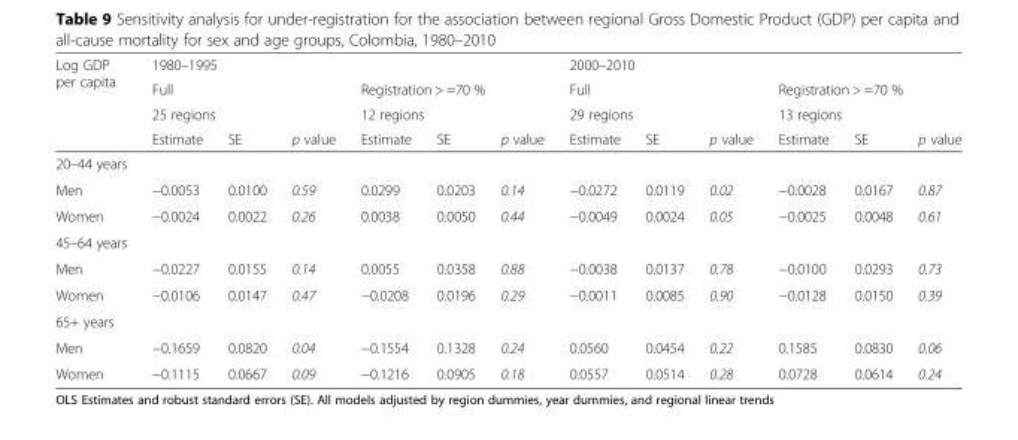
<table><thead><tr><td rowspan="4">Log GDP per capita</td><td colspan="6">1980–1995</td><td colspan="6">2000–2010</td></tr><tr><td rowspan="2" colspan="3">Full 25 regions</td><td rowspan="2" colspan="3">Registration &gt; =70 % 12 regions</td><td rowspan="2" colspan="3">Full 29 regions</td><td rowspan="2" colspan="3">Registration &gt; =70 % 13 regions</td></tr><tr></tr><tr><td>Estimate</td><td>SE</td><td>p value</td><td>Estimate</td><td>SE</td><td>p value</td><td>Estimate</td><td>SE</td><td>p value</td><td>Estimate</td><td>SE</td><td>p value</td></tr></thead><tbody><tr><td colspan="13">20–44 years</td></tr><tr><td>Men</td><td>−0.0053</td><td>0.0100</td><td>0.59</td><td>0.0299</td><td>0.0203</td><td>0.14</td><td>−0.0272</td><td>0.0119</td><td>0.02</td><td>−0.0028</td><td>0.0167</td><td>0.87</td></tr><tr><td>Women</td><td>−0.0024</td><td>0.0022</td><td>0.26</td><td>0.0038</td><td>0.0050</td><td>0.44</td><td>−0.0049</td><td>0.0024</td><td>0.05</td><td>−0.0025</td><td>0.0048</td><td>0.61</td></tr><tr><td colspan="13">45–64 years</td></tr><tr><td>Men</td><td>−0.0227</td><td>0.0155</td><td>0.14</td><td>0.0055</td><td>0.0358</td><td>0.88</td><td>−0.0038</td><td>0.0137</td><td>0.78</td><td>−0.0100</td><td>0.0293</td><td>0.73</td></tr><tr><td>Women</td><td>−0.0106</td><td>0.0147</td><td>0.47</td><td>−0.0208</td><td>0.0196</td><td>0.29</td><td>−0.0011</td><td>0.0085</td><td>0.90</td><td>−0.0128</td><td>0.0150</td><td>0.39</td></tr><tr><td colspan="13">65+ years</td></tr><tr><td>Men</td><td>−0.1659</td><td>0.0820</td><td>0.04</td><td>−0.1554</td><td>0.1328</td><td>0.24</td><td>0.0560</td><td>0.0454</td><td>0.22</td><td>0.1585</td><td>0.0830</td><td>0.06</td></tr><tr><td>Women</td><td>−0.1115</td><td>0.0667</td><td>0.09</td><td>−0.1216</td><td>0.0905</td><td>0.18</td><td>0.0557</td><td>0.0514</td><td>0.28</td><td>0.0728</td><td>0.0614</td><td>0.24</td></tr></tbody></table>